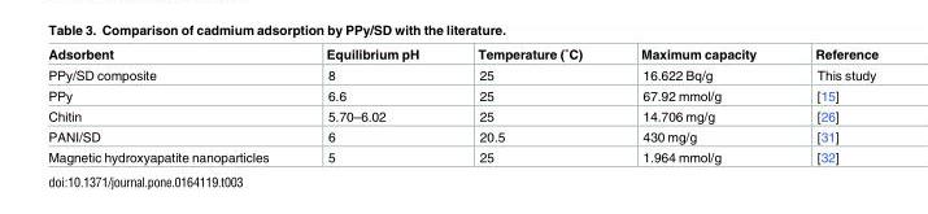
<table><thead><tr><td>Adsorbent</td><td>Equilibrium pH</td><td>Temperature (˚C)</td><td>Maximum capacity</td><td>Reference</td></tr></thead><tbody><tr><td>PPy/SD composite</td><td>8</td><td>25</td><td>16.622 Bq/g</td><td>This study</td></tr><tr><td>PPy</td><td>6.6</td><td>25</td><td>67.92 mmol/g</td><td>[15]</td></tr><tr><td>Chitin</td><td>5.70–6.02</td><td>25</td><td>14.706 mg/g</td><td>[26]</td></tr><tr><td>PANI/SD</td><td>6</td><td>20.5</td><td>430 mg/g</td><td>[31]</td></tr><tr><td>Magnetic hydroxyapatite nanoparticles</td><td>5</td><td>25</td><td>1.964 mmol/g</td><td>[32]</td></tr></tbody></table>